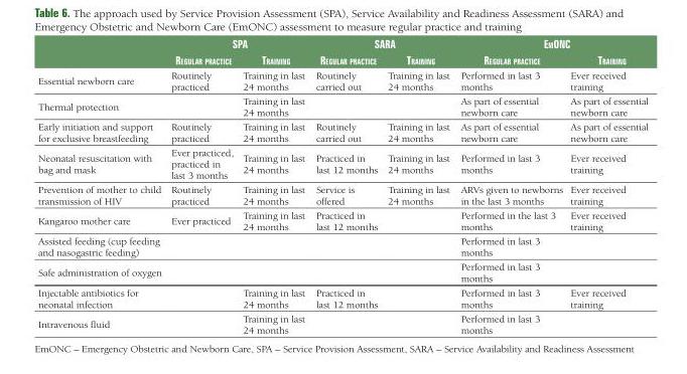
<table><thead><tr><td rowspan="2"></td><td colspan="2">spa</td><td colspan="2">sara</td><td colspan="2">emonc</td></tr><tr><td>regular practIce</td><td>traInIng</td><td>regular practIce</td><td>traInIng</td><td>regular practIce</td><td>traInIng</td></tr></thead><tbody><tr><td>Essential newborn care</td><td>Routinely practiced</td><td>Training in last 24 months</td><td>Routinely carried out</td><td>Training in last 24 months</td><td>Performed in last 3 months</td><td>Ever received training</td></tr><tr><td>Thermal protection</td><td></td><td>Training in last 24 months</td><td></td><td></td><td>As part of essential newborn care</td><td>As part of essential newborn care</td></tr><tr><td>Early initiation and support for exclusive breastfeeding</td><td>Routinely practiced</td><td>Training in last 24 months</td><td>Routinely carried out</td><td>Training in last 24 months</td><td>As part of essential newborn care</td><td>As part of essential newborn care</td></tr><tr><td>Neonatal resuscitation with bag and mask</td><td>Ever practiced, practiced in last 3 months</td><td>Training in last 24 months</td><td>Practiced in last 12 months</td><td>Training in last 24 months</td><td>Performed in last 3 months</td><td>Ever received training</td></tr><tr><td>Prevention of mother to child transmission of HIV</td><td>Routinely practiced</td><td>Training in last 24 months</td><td>Service is offered</td><td>Training in last 24 months</td><td>ARVs given to newborns in the last 3 months</td><td>Ever received training</td></tr><tr><td>Kangaroo mother care</td><td>Ever practiced</td><td>Training in last 24 months</td><td>Practiced in last 12 months</td><td></td><td>Performed in the last 3 months</td><td>Ever received training</td></tr><tr><td>Assisted feeding (cup feeding and nasogastric feeding)</td><td></td><td></td><td></td><td></td><td>Performed in last 3 months</td><td></td></tr><tr><td>Safe administration of oxygen</td><td></td><td></td><td></td><td></td><td>Performed in last 3 months</td><td></td></tr><tr><td>Injectable antibiotics for neonatal infection</td><td></td><td>Training in last 24 months</td><td>Practiced in last 12 months</td><td></td><td>Performed in last 3 months</td><td>Ever received training</td></tr><tr><td>Intravenous fluid</td><td></td><td>Training in last 24 months</td><td></td><td></td><td>Performed in last 3 months</td><td></td></tr></tbody></table>